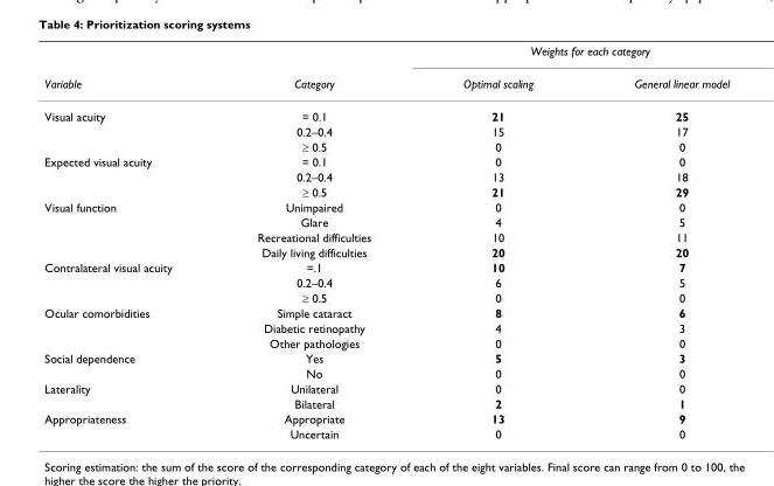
<table><thead><tr><td rowspan="2">Variable</td><td rowspan="2">Category</td><td colspan="2">Weights for each category</td></tr><tr><td>Optimal scaling</td><td>General linear model</td></tr></thead><tbody><tr><td rowspan="3">Visual acuity</td><td>= 0.1</td><td>21</td><td>25</td></tr><tr><td>0.2–0.4</td><td>15</td><td>17</td></tr><tr><td>≥ 0.5</td><td>0</td><td>0</td></tr><tr><td rowspan="3">Expected visual acuity</td><td>= 0.1</td><td>0</td><td>0</td></tr><tr><td>0.2–0.4</td><td>13</td><td>18</td></tr><tr><td>≥ 0.5</td><td>21</td><td>29</td></tr><tr><td rowspan="4">Visual function</td><td>Unimpaired</td><td>0</td><td>0</td></tr><tr><td>Glare</td><td>4</td><td>5</td></tr><tr><td>Recreational difficulties</td><td>10</td><td>11</td></tr><tr><td>Daily living difficulties</td><td>20</td><td>20</td></tr><tr><td rowspan="3">Contralateral visual acuity</td><td>=.1</td><td>10</td><td>7</td></tr><tr><td>0.2–0.4</td><td>6</td><td>5</td></tr><tr><td>≥ 0.5</td><td>0</td><td>0</td></tr><tr><td rowspan="3">Ocular comorbidities</td><td>Simple cataract</td><td>8</td><td>6</td></tr><tr><td>Diabetic retinopathy</td><td>4</td><td>3</td></tr><tr><td>Other pathologies</td><td>0</td><td>0</td></tr><tr><td rowspan="2">Social dependence</td><td>Yes</td><td>5</td><td>3</td></tr><tr><td>No</td><td>0</td><td>0</td></tr><tr><td rowspan="2">Laterality</td><td>Unilateral</td><td>0</td><td>0</td></tr><tr><td>Bilateral</td><td>2</td><td>1</td></tr><tr><td rowspan="2">Appropriateness</td><td>Appropriate</td><td>13</td><td>9</td></tr><tr><td>Uncertain</td><td>0</td><td>0</td></tr></tbody></table>